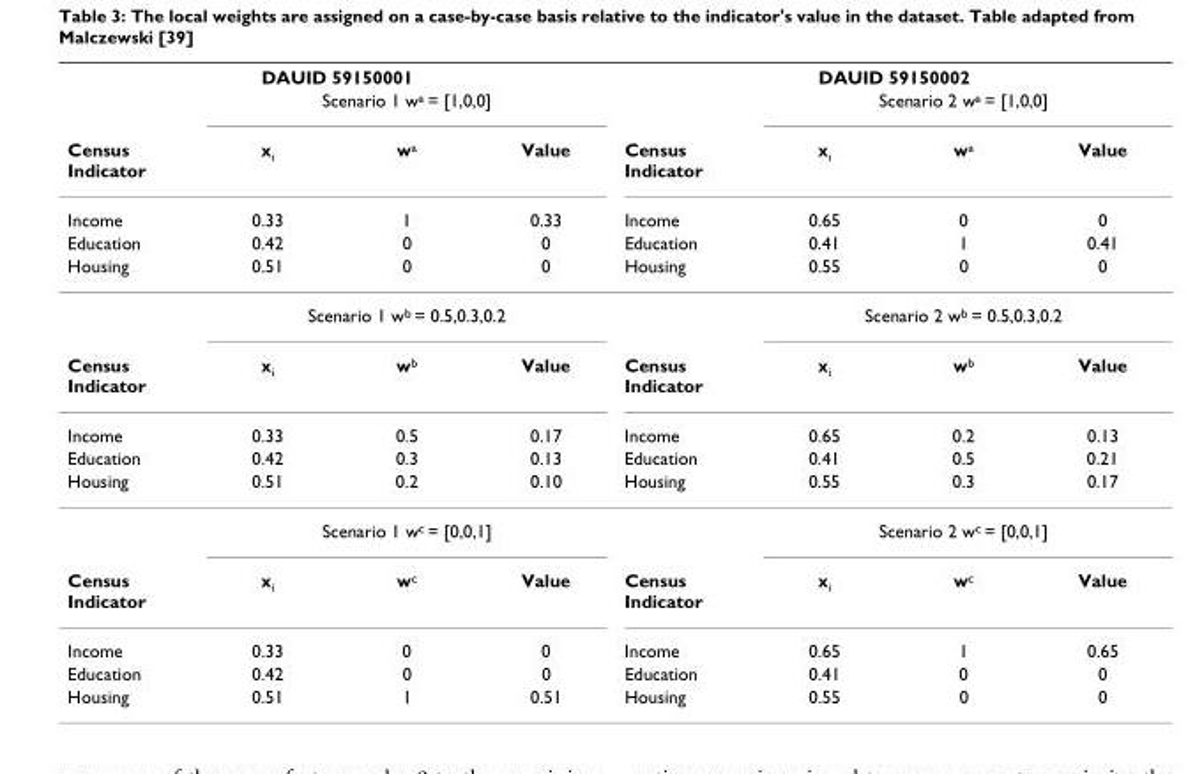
<table><thead><tr><td colspan="4">DAUID 59150001</td><td colspan="4">DAUID 59150002</td></tr><tr><td rowspan="5">Census Indicator Income Education Housing</td><td colspan="3">Scenario 1 w<sup>a</sup> = [1,0,0]</td><td rowspan="5">Census Indicator Income Education Housing</td><td colspan="3">Scenario 2 w<sup>a</sup> = [1,0,0]</td></tr><tr><td rowspan="4">xi 0.33 0.42 0.51</td><td rowspan="4">wa 1 0 0</td><td rowspan="4">Value 0.33 0 0</td><td rowspan="4">xi 0.65 0.41 0.55</td><td rowspan="4">wa 0 1 0</td><td rowspan="4">Value 0 0.41 0</td></tr><tr></tr><tr></tr><tr></tr></thead><tbody><tr><td></td><td colspan="3">Scenario 1 w<sup>b</sup> = 0.5,0.3,0.2</td><td></td><td colspan="3">Scenario 2 w<sup>b</sup> = 0.5,0.3,0.2</td></tr><tr><td>Census Indicator</td><td>x<sub>i</sub></td><td>w<sup>b</sup></td><td>Value</td><td>Census Indicator</td><td>x<sub>i</sub></td><td>w<sup>b</sup></td><td>Value</td></tr><tr><td>Income</td><td>0.33</td><td>0.5</td><td>0.17</td><td>Income</td><td>0.65</td><td>0.2</td><td>0.13</td></tr><tr><td>Education</td><td>0.42</td><td>0.3</td><td>0.13</td><td>Education</td><td>0.41</td><td>0.5</td><td>0.21</td></tr><tr><td rowspan="2">Housing</td><td>0.51</td><td>0.2</td><td>0.10</td><td>Housing</td><td>0.55</td><td>0.3</td><td>0.17</td></tr><tr><td colspan="3">Scenario 1 wc = [0,0,1]</td><td></td><td colspan="3">Scenario 2 wc = [0,0,1]</td></tr><tr><td>Census Indicator</td><td>x<sub>i</sub></td><td>wc</td><td>Value</td><td>Census Indicator</td><td>x<sub>i</sub></td><td>wc</td><td>Value</td></tr><tr><td>Income</td><td>0.33</td><td>0</td><td>0</td><td>Income</td><td>0.65</td><td>1</td><td>0.65</td></tr><tr><td>Education</td><td>0.42</td><td>0</td><td>0</td><td>Education</td><td>0.41</td><td>0</td><td>0</td></tr><tr><td>Housing</td><td>0.51</td><td>1</td><td>0.51</td><td>Housing</td><td>0.55</td><td>0</td><td>0</td></tr></tbody></table>